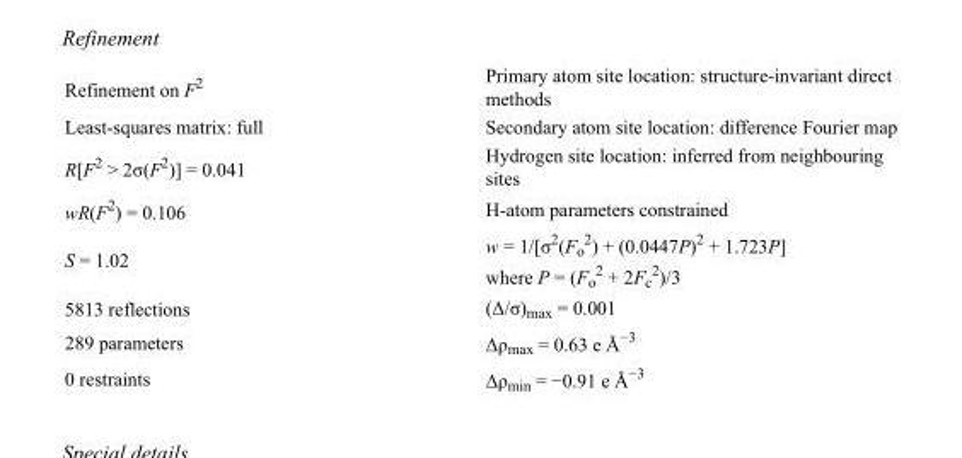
<table><tbody><tr><td>Refinement on F<sup>2</sup></td><td>Primary atom site location: structure-invariant direct methods</td></tr><tr><td>Least-squares matrix: full</td><td>Secondary atom site location: difference Fourier map</td></tr><tr><td>R[F<sup>2</sup> &gt; 2σ(F<sup>2</sup>)] = 0.041</td><td>Hydrogen site location: inferred from neighbouring sites</td></tr><tr><td>wR(F<sup>2</sup>) = 0.106</td><td>H-atom parameters constrained</td></tr><tr><td>S = 1.02</td><td>w = 1/[σ<sup>2</sup>(F<sub>o</sub> <sup>2</sup>) + (0.0447P)<sup>2</sup> + 1.723P] where P = (F<sub>o</sub> <sup>2</sup> + 2F<sub>c</sub> <sup>2</sup>)/3</td></tr><tr><td>5813 reflections</td><td>(Δ/σ)<sub>max</sub> = 0.001</td></tr><tr><td>289 parameters</td><td>Δρ<sub>max</sub> = 0.63 e Å<sup>−3</sup></td></tr><tr><td>0 restraints</td><td>Δρ<sub>min</sub> = −0.91 e Å<sup>−3</sup></td></tr></tbody></table>